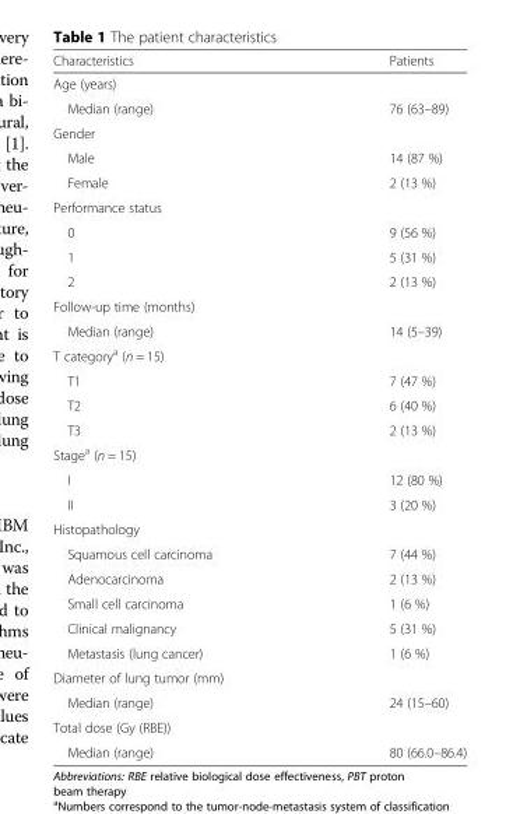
<table><thead><tr><td>Characteristics</td><td>Patients</td></tr></thead><tbody><tr><td colspan="2">Age (years)</td></tr><tr><td>Median (range)</td><td>76 (63–89)</td></tr><tr><td colspan="2">Gender</td></tr><tr><td>Male</td><td>14 (87 %)</td></tr><tr><td>Female</td><td>2 (13 %)</td></tr><tr><td colspan="2">Performance status</td></tr><tr><td>0</td><td>9 (56 %)</td></tr><tr><td>1</td><td>5 (31 %)</td></tr><tr><td>2</td><td>2 (13 %)</td></tr><tr><td colspan="2">Follow-up time (months)</td></tr><tr><td>Median (range)</td><td>14 (5–39)</td></tr><tr><td colspan="2">T category<sup>a</sup> (n = 15)</td></tr><tr><td>T1</td><td>7 (47 %)</td></tr><tr><td>T2</td><td>6 (40 %)</td></tr><tr><td>T3</td><td>2 (13 %)</td></tr><tr><td colspan="2">Stage<sup>a</sup> (n = 15)</td></tr><tr><td>I</td><td>12 (80 %)</td></tr><tr><td>II</td><td>3 (20 %)</td></tr><tr><td colspan="2">Histopathology</td></tr><tr><td>Squamous cell carcinoma</td><td>7 (44 %)</td></tr><tr><td>Adenocarcinoma</td><td>2 (13 %)</td></tr><tr><td>Small cell carcinoma</td><td>1 (6 %)</td></tr><tr><td>Clinical malignancy</td><td>5 (31 %)</td></tr><tr><td>Metastasis (lung cancer)</td><td>1 (6 %)</td></tr><tr><td colspan="2">Diameter of lung tumor (mm)</td></tr><tr><td>Median (range)</td><td>24 (15–60)</td></tr><tr><td colspan="2">Total dose (Gy (RBE))</td></tr><tr><td>Median (range)</td><td>80 (66.0–86.4)</td></tr></tbody></table>